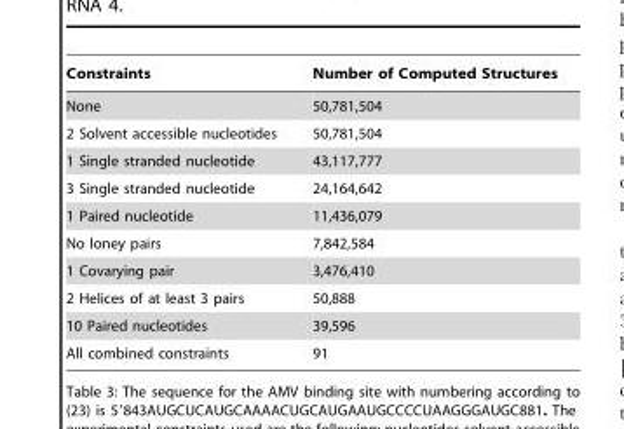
<table><thead><tr><td>Constraints</td><td>Number of Computed Structures</td></tr></thead><tbody><tr><td>None</td><td>50,781,504</td></tr><tr><td>2 Solvent accessible nucleotides</td><td>50,781,504</td></tr><tr><td>1 Single stranded nucleotide</td><td>43,117,777</td></tr><tr><td>3 Single stranded nucleotide</td><td>24,164,642</td></tr><tr><td>1 Paired nucleotide</td><td>11,436,079</td></tr><tr><td>No loney pairs</td><td>7,842,584</td></tr><tr><td>1 Covarying pair</td><td>3,476,410</td></tr><tr><td>2 Helices of at least 3 pairs</td><td>50,888</td></tr><tr><td>10 Paired nucleotides</td><td>39,596</td></tr><tr><td>All combined constraints</td><td>91</td></tr></tbody></table>